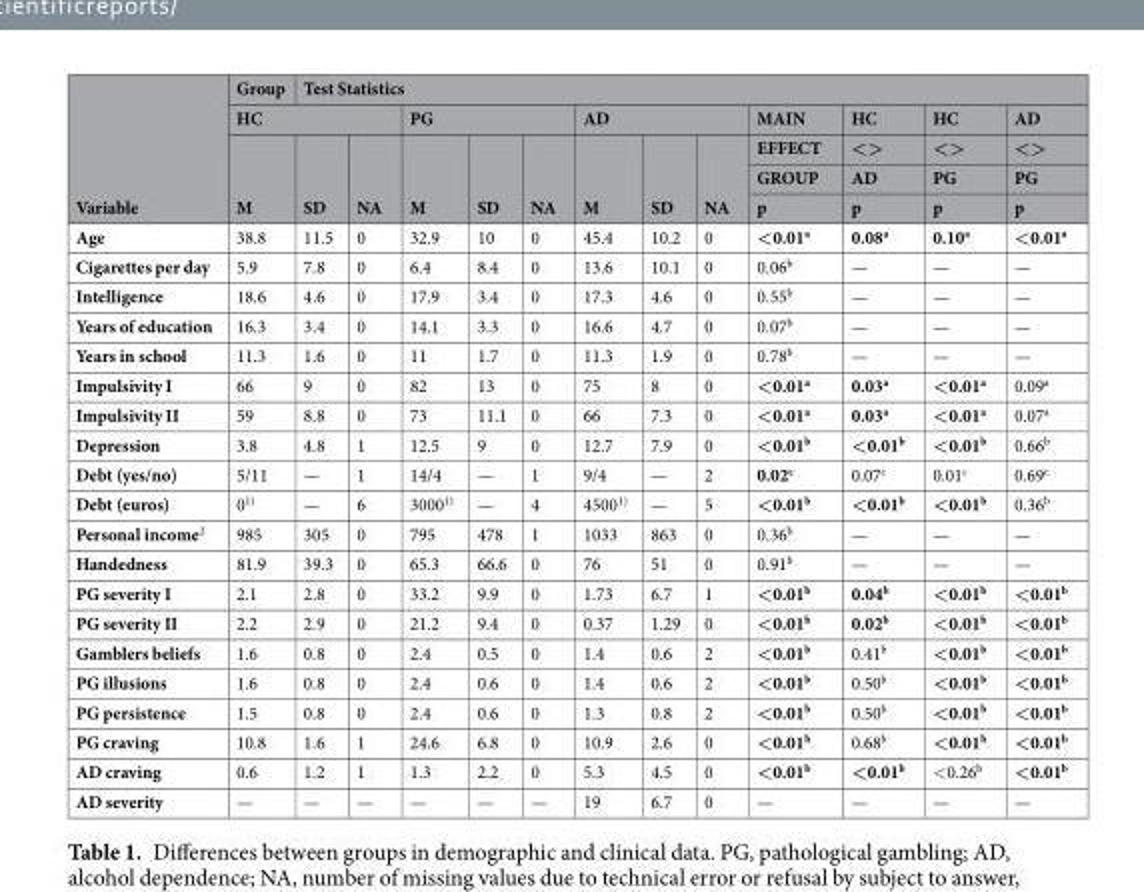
<table><thead><tr><td rowspan="5">Variable</td><td>Group</td><td colspan="12">Test Statistics</td></tr><tr><td colspan="3">HC</td><td colspan="3">PG</td><td colspan="3">AD</td><td rowspan="4">MAIN EFFECT GROUP p</td><td rowspan="4">HC &lt;&gt; AD p</td><td rowspan="4">HC &lt;&gt; PG p</td><td rowspan="4">AD &lt;&gt; PG p</td></tr><tr><td rowspan="3">M</td><td rowspan="3">SD</td><td rowspan="3">NA</td><td rowspan="3">M</td><td rowspan="3">SD</td><td rowspan="3">NA</td><td rowspan="3">M</td><td rowspan="3">SD</td><td rowspan="3">NA</td></tr><tr></tr><tr></tr></thead><tbody><tr><td>Age</td><td>38.8</td><td>11.5</td><td>0</td><td>32.9</td><td>10</td><td>0</td><td>45.4</td><td>10.2</td><td>0</td><td>&lt;0.01<sup>a</sup></td><td>0.08<sup>a</sup></td><td>0.10<sup>a</sup></td><td>&lt;0.01<sup>a</sup></td></tr><tr><td>Cigarettes per day</td><td>5.9</td><td>7.8</td><td>0</td><td>6.4</td><td>8.4</td><td>0</td><td>13.6</td><td>10.1</td><td>0</td><td>0.06<sup>b</sup></td><td>—</td><td>—</td><td>—</td></tr><tr><td>Intelligence</td><td>18.6</td><td>4.6</td><td>0</td><td>17.9</td><td>3.4</td><td>0</td><td>17.3</td><td>4.6</td><td>0</td><td>0.55<sup>b</sup></td><td>—</td><td>—</td><td>—</td></tr><tr><td>Years of education</td><td>16.3</td><td>3.4</td><td>0</td><td>14.1</td><td>3.3</td><td>0</td><td>16.6</td><td>4.7</td><td>0</td><td>0.07<sup>b</sup></td><td>—</td><td>—</td><td>—</td></tr><tr><td>Years in school</td><td>11.3</td><td>1.6</td><td>0</td><td>11</td><td>1.7</td><td>0</td><td>11.3</td><td>1.9</td><td>0</td><td>0.78<sup>b</sup></td><td>—</td><td>—</td><td>—</td></tr><tr><td>Impulsivity I</td><td>66</td><td>9</td><td>0</td><td>82</td><td>13</td><td>0</td><td>75</td><td>8</td><td>0</td><td>&lt;0.01<sup>a</sup></td><td>0.03<sup>a</sup></td><td>&lt;0.01<sup>a</sup></td><td>0.09<sup>a</sup></td></tr><tr><td>Impulsivity II</td><td>59</td><td>8.8</td><td>0</td><td>73</td><td>11.1</td><td>0</td><td>66</td><td>7.3</td><td>0</td><td>&lt;0.01<sup>a</sup></td><td>0.03<sup>a</sup></td><td>&lt;0.01<sup>a</sup></td><td>0.07<sup>a</sup></td></tr><tr><td>Depression</td><td>3.8</td><td>4.8</td><td>1</td><td>12.5</td><td>9</td><td>0</td><td>12.7</td><td>7.9</td><td>0</td><td>&lt;0.01<sup>b</sup></td><td>&lt;0.01<sup>b</sup></td><td>&lt;0.01<sup>b</sup></td><td>0.66<sup>b</sup></td></tr><tr><td>Debt (yes/no)</td><td>5/11</td><td>—</td><td>1</td><td>14/4</td><td>—</td><td>1</td><td>9/4</td><td>—</td><td>2</td><td>0.02<sup>c</sup></td><td>0.07<sup>c</sup></td><td>0.01<sup>c</sup></td><td>0.69<sup>c</sup></td></tr><tr><td>Debt (euros)</td><td>0<sup>1)</sup></td><td>—</td><td>6</td><td>3000<sup>1)</sup></td><td>—</td><td>4</td><td>4500<sup>1)</sup></td><td>—</td><td>5</td><td>&lt;0.01<sup>b</sup></td><td>&lt;0.01<sup>b</sup></td><td>&lt;0.01<sup>b</sup></td><td>0.36<sup>b</sup></td></tr><tr><td>Personal income<sup>2</sup></td><td>985</td><td>305</td><td>0</td><td>795</td><td>478</td><td>1</td><td>1033</td><td>863</td><td>0</td><td>0.36<sup>b</sup></td><td>—</td><td>—</td><td>—</td></tr><tr><td>Handedness</td><td>81.9</td><td>39.3</td><td>0</td><td>65.3</td><td>66.6</td><td>0</td><td>76</td><td>51</td><td>0</td><td>0.91<sup>b</sup></td><td>—</td><td>—</td><td>—</td></tr><tr><td>PG severity I</td><td>2.1</td><td>2.8</td><td>0</td><td>33.2</td><td>9.9</td><td>0</td><td>1.73</td><td>6.7</td><td>1</td><td>&lt;0.01<sup>b</sup></td><td>0.04<sup>b</sup></td><td>&lt;0.01<sup>b</sup></td><td>&lt;0.01<sup>b</sup></td></tr><tr><td>PG severity II</td><td>2.2</td><td>2.9</td><td>0</td><td>21.2</td><td>9.4</td><td>0</td><td>0.37</td><td>1.29</td><td>0</td><td>&lt;0.01<sup>b</sup></td><td>0.02<sup>b</sup></td><td>&lt;0.01<sup>b</sup></td><td>&lt;0.01<sup>b</sup></td></tr><tr><td>Gamblers beliefs</td><td>1.6</td><td>0.8</td><td>0</td><td>2.4</td><td>0.5</td><td>0</td><td>1.4</td><td>0.6</td><td>2</td><td>&lt;0.01<sup>b</sup></td><td>0.41<sup>b</sup></td><td>&lt;0.01<sup>b</sup></td><td>&lt;0.01<sup>b</sup></td></tr><tr><td>PG illusions</td><td>1.6</td><td>0.8</td><td>0</td><td>2.4</td><td>0.6</td><td>0</td><td>1.4</td><td>0.6</td><td>2</td><td>&lt;0.01<sup>b</sup></td><td>0.50<sup>b</sup></td><td>&lt;0.01<sup>b</sup></td><td>&lt;0.01<sup>b</sup></td></tr><tr><td>PG persistence</td><td>1.5</td><td>0.8</td><td>0</td><td>2.4</td><td>0.6</td><td>0</td><td>1.3</td><td>0.8</td><td>2</td><td>&lt;0.01<sup>b</sup></td><td>0.50<sup>b</sup></td><td>&lt;0.01<sup>b</sup></td><td>&lt;0.01<sup>b</sup></td></tr><tr><td>PG craving</td><td>10.8</td><td>1.6</td><td>1</td><td>24.6</td><td>6.8</td><td>0</td><td>10.9</td><td>2.6</td><td>0</td><td>&lt;0.01<sup>b</sup></td><td>0.68<sup>b</sup></td><td>&lt;0.01<sup>b</sup></td><td>&lt;0.01<sup>b</sup></td></tr><tr><td>AD craving</td><td>0.6</td><td>1.2</td><td>1</td><td>1.3</td><td>2.2</td><td>0</td><td>5.3</td><td>4.5</td><td>0</td><td>&lt;0.01<sup>b</sup></td><td>&lt;0.01<sup>b</sup></td><td>&lt;0.26<sup>b</sup></td><td>&lt;0.01<sup>b</sup></td></tr><tr><td>AD severity</td><td>—</td><td>—</td><td>—</td><td>—</td><td>—</td><td>—</td><td>19</td><td>6.7</td><td>0</td><td>—</td><td>—</td><td>—</td><td>—</td></tr></tbody></table>